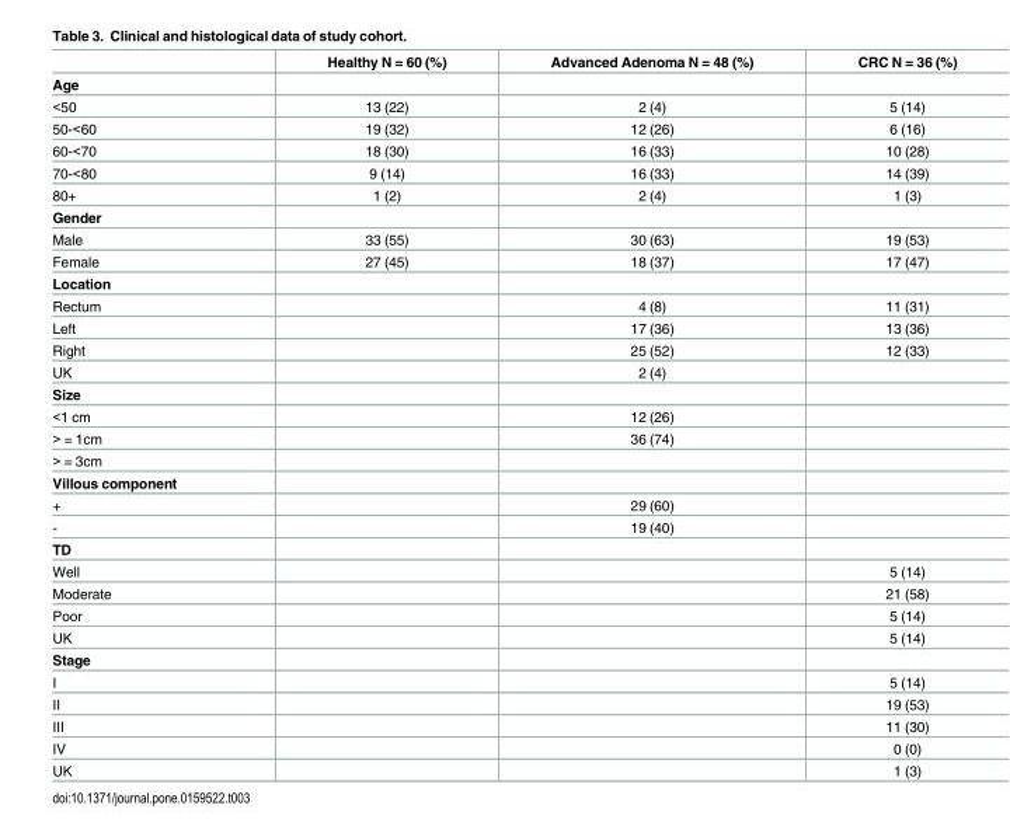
<table><thead><tr><td></td><td>Healthy N = 60 (%)</td><td>Advanced Adenoma N = 48 (%)</td><td>CRC N = 36 (%)</td></tr></thead><tbody><tr><td colspan="4">Age</td></tr><tr><td>&lt;50</td><td>13 (22)</td><td>2 (4)</td><td>5 (14)</td></tr><tr><td>50-&lt;60</td><td>19 (32)</td><td>12 (26)</td><td>6 (16)</td></tr><tr><td>60-&lt;70</td><td>18 (30)</td><td>16 (33)</td><td>10 (28)</td></tr><tr><td>70-&lt;80</td><td>9 (14)</td><td>16 (33)</td><td>14 (39)</td></tr><tr><td>80+</td><td>1 (2)</td><td>2 (4)</td><td>1 (3)</td></tr><tr><td colspan="4">Gender</td></tr><tr><td>Male</td><td>33 (55)</td><td>30 (63)</td><td>19 (53)</td></tr><tr><td>Female</td><td>27 (45)</td><td>18 (37)</td><td>17 (47)</td></tr><tr><td colspan="4">Location</td></tr><tr><td>Rectum</td><td></td><td>4 (8)</td><td>11 (31)</td></tr><tr><td>Left</td><td></td><td>17 (36)</td><td>13 (36)</td></tr><tr><td>Right</td><td></td><td>25 (52)</td><td>12 (33)</td></tr><tr><td>UK</td><td></td><td>2 (4)</td><td></td></tr><tr><td colspan="4">Size</td></tr><tr><td>&lt;1 cm</td><td></td><td>12 (26)</td><td></td></tr><tr><td>&gt; = 1cm</td><td></td><td>36 (74)</td><td></td></tr><tr><td colspan="4">&gt; = 3cm</td></tr><tr><td colspan="4">Villous component</td></tr><tr><td>+</td><td></td><td>29 (60)</td><td></td></tr><tr><td>-</td><td></td><td>19 (40)</td><td></td></tr><tr><td colspan="4">TD</td></tr><tr><td>Well</td><td></td><td></td><td>5 (14)</td></tr><tr><td>Moderate</td><td></td><td></td><td>21 (58)</td></tr><tr><td>Poor</td><td></td><td></td><td>5 (14)</td></tr><tr><td>UK</td><td></td><td></td><td>5 (14)</td></tr><tr><td colspan="4">Stage</td></tr><tr><td>I</td><td></td><td></td><td>5 (14)</td></tr><tr><td>II</td><td></td><td></td><td>19 (53)</td></tr><tr><td>III</td><td></td><td></td><td>11 (30)</td></tr><tr><td>IV</td><td></td><td></td><td>0 (0)</td></tr><tr><td>UK</td><td></td><td></td><td>1 (3)</td></tr></tbody></table>